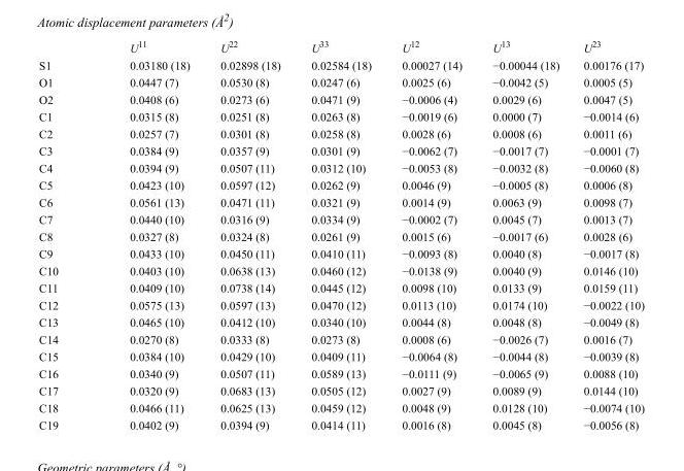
<table><thead><tr><td></td><td>U<sup>11</sup></td><td>U<sup>22</sup></td><td>U<sup>33</sup></td><td>U<sup>12</sup></td><td>U<sup>13</sup></td><td>U<sup>23</sup></td></tr></thead><tbody><tr><td>S1</td><td>0.03180 (18)</td><td>0.02898 (18)</td><td>0.02584 (18)</td><td>0.00027 (14)</td><td>−0.00044 (18)</td><td>0.00176 (17)</td></tr><tr><td>O1</td><td>0.0447 (7)</td><td>0.0530 (8)</td><td>0.0247 (6)</td><td>0.0025 (6)</td><td>−0.0042 (5)</td><td>0.0005 (5)</td></tr><tr><td>O2</td><td>0.0408 (6)</td><td>0.0273 (6)</td><td>0.0471 (9)</td><td>−0.0006 (4)</td><td>0.0029 (6)</td><td>0.0047 (5)</td></tr><tr><td>C1</td><td>0.0315 (8)</td><td>0.0251 (8)</td><td>0.0263 (8)</td><td>−0.0019 (6)</td><td>0.0000 (7)</td><td>−0.0014 (6)</td></tr><tr><td>C2</td><td>0.0257 (7)</td><td>0.0301 (8)</td><td>0.0258 (8)</td><td>0.0028 (6)</td><td>0.0008 (6)</td><td>0.0011 (6)</td></tr><tr><td>C3</td><td>0.0384 (9)</td><td>0.0357 (9)</td><td>0.0301 (9)</td><td>−0.0062 (7)</td><td>−0.0017 (7)</td><td>−0.0001 (7)</td></tr><tr><td>C4</td><td>0.0394 (9)</td><td>0.0507 (11)</td><td>0.0312 (10)</td><td>−0.0053 (8)</td><td>−0.0032 (8)</td><td>−0.0060 (8)</td></tr><tr><td>C5</td><td>0.0423 (10)</td><td>0.0597 (12)</td><td>0.0262 (9)</td><td>0.0046 (9)</td><td>−0.0005 (8)</td><td>0.0006 (8)</td></tr><tr><td>C6</td><td>0.0561 (13)</td><td>0.0471 (11)</td><td>0.0321 (9)</td><td>0.0014 (9)</td><td>0.0063 (9)</td><td>0.0098 (7)</td></tr><tr><td>C7</td><td>0.0440 (10)</td><td>0.0316 (9)</td><td>0.0334 (9)</td><td>−0.0002 (7)</td><td>0.0045 (7)</td><td>0.0013 (7)</td></tr><tr><td>C8</td><td>0.0327 (8)</td><td>0.0324 (8)</td><td>0.0261 (9)</td><td>0.0015 (6)</td><td>−0.0017 (6)</td><td>0.0028 (6)</td></tr><tr><td>C9</td><td>0.0433 (10)</td><td>0.0450 (11)</td><td>0.0410 (11)</td><td>−0.0093 (8)</td><td>0.0040 (8)</td><td>−0.0017 (8)</td></tr><tr><td>C10</td><td>0.0403 (10)</td><td>0.0638 (13)</td><td>0.0460 (12)</td><td>−0.0138 (9)</td><td>0.0040 (9)</td><td>0.0146 (10)</td></tr><tr><td>C11</td><td>0.0409 (10)</td><td>0.0738 (14)</td><td>0.0445 (12)</td><td>0.0098 (10)</td><td>0.0133 (9)</td><td>0.0159 (11)</td></tr><tr><td>C12</td><td>0.0575 (13)</td><td>0.0597 (13)</td><td>0.0470 (12)</td><td>0.0113 (10)</td><td>0.0174 (10)</td><td>−0.0022 (10)</td></tr><tr><td>C13</td><td>0.0465 (10)</td><td>0.0412 (10)</td><td>0.0340 (10)</td><td>0.0044 (8)</td><td>0.0048 (8)</td><td>−0.0049 (8)</td></tr><tr><td>C14</td><td>0.0270 (8)</td><td>0.0333 (8)</td><td>0.0273 (8)</td><td>0.0008 (6)</td><td>−0.0026 (7)</td><td>0.0016 (7)</td></tr><tr><td>C15</td><td>0.0384 (10)</td><td>0.0429 (10)</td><td>0.0409 (11)</td><td>−0.0064 (8)</td><td>−0.0044 (8)</td><td>−0.0039 (8)</td></tr><tr><td>C16</td><td>0.0340 (9)</td><td>0.0507 (11)</td><td>0.0589 (13)</td><td>−0.0111 (9)</td><td>−0.0065 (9)</td><td>0.0088 (10)</td></tr><tr><td>C17</td><td>0.0320 (9)</td><td>0.0683 (13)</td><td>0.0505 (12)</td><td>0.0027 (9)</td><td>0.0089 (9)</td><td>0.0144 (10)</td></tr><tr><td>C18</td><td>0.0466 (11)</td><td>0.0625 (13)</td><td>0.0459 (12)</td><td>0.0048 (9)</td><td>0.0128 (10)</td><td>−0.0074 (10)</td></tr><tr><td>C19</td><td>0.0402 (9)</td><td>0.0394 (9)</td><td>0.0414 (11)</td><td>0.0016 (8)</td><td>0.0045 (8)</td><td>−0.0056 (8)</td></tr></tbody></table>